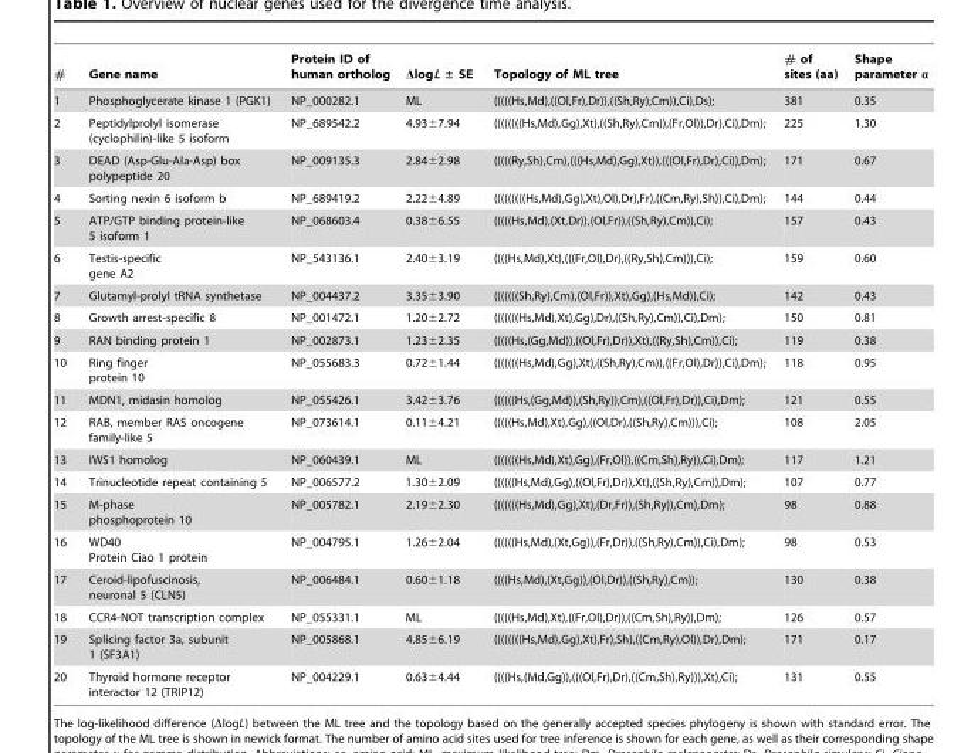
<table><thead><tr><td>#</td><td>Gene name</td><td>Protein ID of human ortholog</td><td>ΔlogL ± SE</td><td>Topology of ML tree</td><td># of sites (aa)</td><td>Shape parameter</td></tr></thead><tbody><tr><td>1</td><td>Phosphoglycerate kinase 1 (PGK1)</td><td>NP_000282.1</td><td>ML</td><td>(((((Hs,Md),((Ol,Fr),Dr)),((Sh,Ry),Cm)),Ci),Ds);</td><td>381</td><td>0.35</td></tr><tr><td>2</td><td>Peptidylprolyl isomerase (cyclophilin)-like 5 isoform</td><td>NP_689542.2</td><td>4.93±7.94</td><td>((((((((Hs,Md),Gg),Xt),((Sh,Ry),Cm)),(Fr,Ol)),Dr),Ci),Dm);</td><td>225</td><td>1.30</td></tr><tr><td>3</td><td>DEAD (Asp-Glu-Ala-Asp) box polypeptide 20</td><td>NP_009135.3</td><td>2.84±2.98</td><td>(((((Ry,Sh),Cm),(((Hs,Md),Gg),Xt)),(((Ol,Fr),Dr),Ci)),Dm);</td><td>171</td><td>0.67</td></tr><tr><td>4</td><td>Sorting nexin 6 isoform b</td><td>NP_689419.2</td><td>2.22±4.89</td><td>(((((((((Hs,Md),Gg),Xt),Ol),Dr),Fr),((Cm,Ry),Sh)),Ci),Dm);</td><td>144</td><td>0.44</td></tr><tr><td>5</td><td>ATP/GTP binding protein-like 5 isoform 1</td><td>NP_068603.4</td><td>0.38±6.55</td><td>(((((Hs,Md),(Xt,Dr)),(Ol,Fr)),((Sh,Ry),Cm)),Ci);</td><td>157</td><td>0.43</td></tr><tr><td>6</td><td>Testis-specific gene A2</td><td>NP_543136.1</td><td>2.40±3.19</td><td>((((Hs,Md),Xt),(((Fr,Ol),Dr),((Ry,Sh),Cm))),Ci);</td><td>159</td><td>0.60</td></tr><tr><td>7</td><td>Glutamyl-prolyl tRNA synthetase</td><td>NP_004437.2</td><td>3.35±3.90</td><td>(((((((Sh,Ry),Cm),(Ol,Fr)),Xt),Gg),(Hs,Md)),Ci);</td><td>142</td><td>0.43</td></tr><tr><td>8</td><td>Growth arrest-specific 8</td><td>NP_001472.1</td><td>1.20±2.72</td><td>(((((((Hs,Md),Xt),Gg),Dr),((Sh,Ry),Cm)),Ci),Dm);</td><td>150</td><td>0.81</td></tr><tr><td>9</td><td>RAN binding protein 1</td><td>NP_002873.1</td><td>1.23±2.35</td><td>(((((Hs,(Gg,Md)),((Ol,Fr),Dr)),Xt),((Ry,Sh),Cm)),Ci);</td><td>119</td><td>0.38</td></tr><tr><td>10</td><td>Ring finger protein 10</td><td>NP_055683.3</td><td>0.72±1.44</td><td>(((((((Hs,Md),Gg),Xt),((Sh,Ry),Cm)),((Fr,Ol),Dr)),Ci),Dm);</td><td>118</td><td>0.95</td></tr><tr><td>11</td><td>MDN1, midasin homolog</td><td>NP_055426.1</td><td>3.42±3.76</td><td>((((((Hs,(Gg,Md)),(Sh,Ry)),Cm),((Ol,Fr),Dr)),Ci),Dm);</td><td>121</td><td>0.55</td></tr><tr><td>12</td><td>RAB, member RAS oncogene family-like 5</td><td>NP_073614.1</td><td>0.11±4.21</td><td>(((((Hs,Md),Xt),Gg),((Ol,Dr),((Sh,Ry),Cm))),Ci);</td><td>108</td><td>2.05</td></tr><tr><td>13</td><td>IWS1 homolog</td><td>NP_060439.1</td><td>ML</td><td>(((((((Hs,Md),Xt),Gg),(Fr,Ol)),((Cm,Sh),Ry)),Ci),Dm);</td><td>117</td><td>1.21</td></tr><tr><td>14</td><td>Trinucleotide repeat containing 5</td><td>NP_006577.2</td><td>1.30±2.09</td><td>((((((Hs,Md),Gg),((Ol,Fr),Dr)),Xt),((Sh,Ry),Cm)),Dm);</td><td>107</td><td>0.77</td></tr><tr><td>15</td><td>M-phase phosphoprotein 10</td><td>NP_005782.1</td><td>2.19±2.30</td><td>(((((((Hs,Md),Gg),Xt),(Dr,Fr)),(Sh,Ry)),Cm),Dm);</td><td>98</td><td>0.88</td></tr><tr><td>16</td><td>WD40 Protein Ciao 1 protein</td><td>NP_004795.1</td><td>1.26±2.04</td><td>((((((Hs,Md),(Xt,Gg)),(Fr,Dr)),((Sh,Ry),Cm)),Ci),Dm);</td><td>98</td><td>0.53</td></tr><tr><td>17</td><td>Ceroid-lipofuscinosis, neuronal 5 (CLN5)</td><td>NP_006484.1</td><td>0.60±1.18</td><td>((((Hs,Md),(Xt,Gg)),(Ol,Dr)),((Sh,Ry),Cm));</td><td>130</td><td>0.38</td></tr><tr><td>18</td><td>CCR4-NOT transcription complex</td><td>NP_055331.1</td><td>ML</td><td>(((((Hs,Md),Xt),((Fr,Ol),Dr)),((Cm,Sh),Ry)),Dm);</td><td>126</td><td>0.57</td></tr><tr><td>19</td><td>Splicing factor 3a, subunit 1 (SF3A1)</td><td>NP_005868.1</td><td>4.85±6.19</td><td>((((((((Hs,Md),Gg),Xt),Fr),Sh),((Cm,Ry),Ol)),Dr),Dm);</td><td>171</td><td>0.17</td></tr><tr><td>20</td><td>Thyroid hormone receptor interactor 12 (TRIP12)</td><td>NP_004229.1</td><td>0.63±4.44</td><td>((((Hs,(Md,Gg)),(((Ol,Fr),Dr),((Cm,Sh),Ry))),Xt),Ci);</td><td>131</td><td>0.55</td></tr></tbody></table>